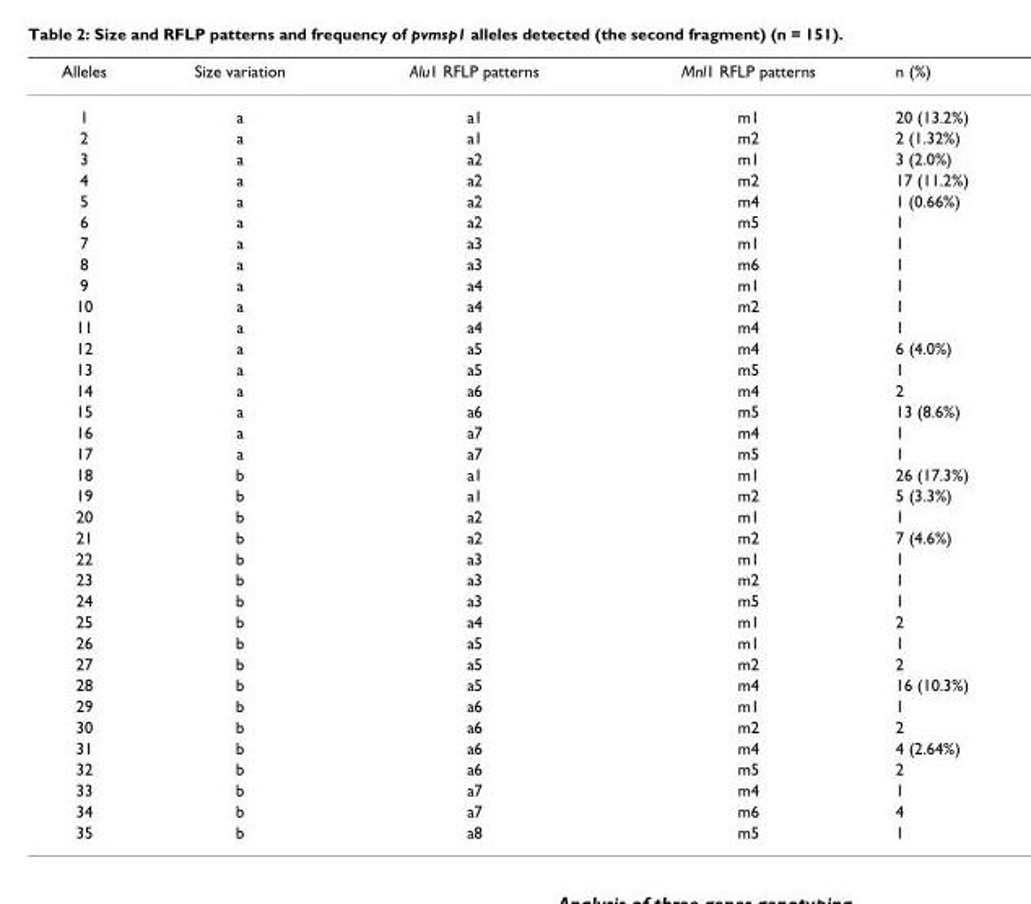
<table><thead><tr><td>Alleles</td><td>Size variation</td><td>Alu1 RFLP patterns</td><td>Mnl1 RFLP patterns</td><td>n (%)</td></tr></thead><tbody><tr><td>1</td><td>a</td><td>a1</td><td>m1</td><td>20 (13.2%)</td></tr><tr><td>2</td><td>a</td><td>a1</td><td>m2</td><td>2 (1.32%)</td></tr><tr><td>3</td><td>a</td><td>a2</td><td>m1</td><td>3 (2.0%)</td></tr><tr><td>4</td><td>a</td><td>a2</td><td>m2</td><td>17 (11.2%)</td></tr><tr><td>5</td><td>a</td><td>a2</td><td>m4</td><td>1 (0.66%)</td></tr><tr><td>6</td><td>a</td><td>a2</td><td>m5</td><td>1</td></tr><tr><td>7</td><td>a</td><td>a3</td><td>m1</td><td>1</td></tr><tr><td>8</td><td>a</td><td>a3</td><td>m6</td><td>1</td></tr><tr><td>9</td><td>a</td><td>a4</td><td>m1</td><td>1</td></tr><tr><td>10</td><td>a</td><td>a4</td><td>m2</td><td>1</td></tr><tr><td>11</td><td>a</td><td>a4</td><td>m4</td><td>1</td></tr><tr><td>12</td><td>a</td><td>a5</td><td>m4</td><td>6 (4.0%)</td></tr><tr><td>13</td><td>a</td><td>a5</td><td>m5</td><td>1</td></tr><tr><td>14</td><td>a</td><td>a6</td><td>m4</td><td>2</td></tr><tr><td>15</td><td>a</td><td>a6</td><td>m5</td><td>13 (8.6%)</td></tr><tr><td>16</td><td>a</td><td>a7</td><td>m4</td><td>1</td></tr><tr><td>17</td><td>a</td><td>a7</td><td>m5</td><td>1</td></tr><tr><td>18</td><td>b</td><td>a1</td><td>m1</td><td>26 (17.3%)</td></tr><tr><td>19</td><td>b</td><td>a1</td><td>m2</td><td>5 (3.3%)</td></tr><tr><td>20</td><td>b</td><td>a2</td><td>m1</td><td>1</td></tr><tr><td>21</td><td>b</td><td>a2</td><td>m2</td><td>7 (4.6%)</td></tr><tr><td>22</td><td>b</td><td>a3</td><td>m1</td><td>1</td></tr><tr><td>23</td><td>b</td><td>a3</td><td>m2</td><td>1</td></tr><tr><td>24</td><td>b</td><td>a3</td><td>m5</td><td>1</td></tr><tr><td>25</td><td>b</td><td>a4</td><td>m1</td><td>2</td></tr><tr><td>26</td><td>b</td><td>a5</td><td>m1</td><td>1</td></tr><tr><td>27</td><td>b</td><td>a5</td><td>m2</td><td>2</td></tr><tr><td>28</td><td>b</td><td>a5</td><td>m4</td><td>16 (10.3%)</td></tr><tr><td>29</td><td>b</td><td>a6</td><td>m1</td><td>1</td></tr><tr><td>30</td><td>b</td><td>a6</td><td>m2</td><td>2</td></tr><tr><td>31</td><td>b</td><td>a6</td><td>m4</td><td>4 (2.64%)</td></tr><tr><td>32</td><td>b</td><td>a6</td><td>m5</td><td>2</td></tr><tr><td>33</td><td>b</td><td>a7</td><td>m4</td><td>1</td></tr><tr><td>34</td><td>b</td><td>a7</td><td>m6</td><td>4</td></tr><tr><td>35</td><td>b</td><td>a8</td><td>m5</td><td>1</td></tr></tbody></table>